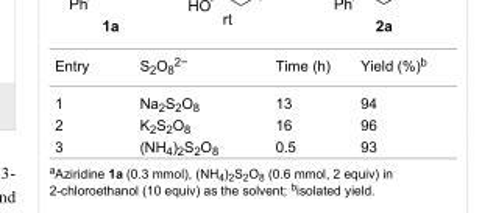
<table><tbody><tr><td>Entry</td><td>S<sub>2</sub>O<sub>8</sub><sup>2−</sup></td><td>Time (h)</td><td>Yield (%)<sup>b</sup></td></tr><tr><td>1</td><td>Na<sub>2</sub>S<sub>2</sub>O<sub>8</sub></td><td>13</td><td>94</td></tr><tr><td>2</td><td>K<sub>2</sub>S<sub>2</sub>O<sub>8</sub></td><td>16</td><td>96</td></tr><tr><td>3</td><td>(NH<sub>4</sub>)<sub>2</sub>S<sub>2</sub>O<sub>8</sub></td><td>0.5</td><td>93</td></tr></tbody></table>